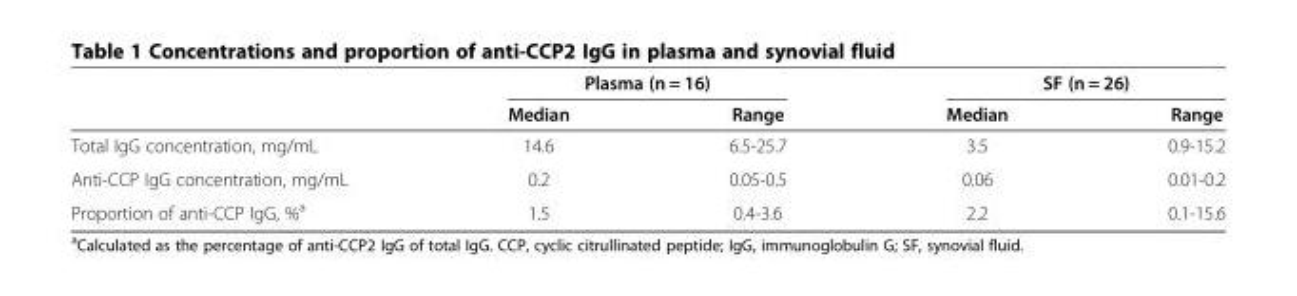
<table><thead><tr><td rowspan="2"></td><td colspan="2">Plasma (n = 16)</td><td colspan="2">SF (n = 26)</td></tr><tr><td>Median</td><td>Range</td><td>Median</td><td>Range</td></tr></thead><tbody><tr><td>Total IgG concentration, mg/mL</td><td>14.6</td><td>6.5-25.7</td><td>3.5</td><td>0.9-15.2</td></tr><tr><td>Anti-CCP IgG concentration, mg/mL</td><td>0.2</td><td>0.05-0.5</td><td>0.06</td><td>0.01-0.2</td></tr><tr><td>Proportion of anti-CCP IgG, %<sup>a</sup></td><td>1.5</td><td>0.4-3.6</td><td>2.2</td><td>0.1-15.6</td></tr></tbody></table>